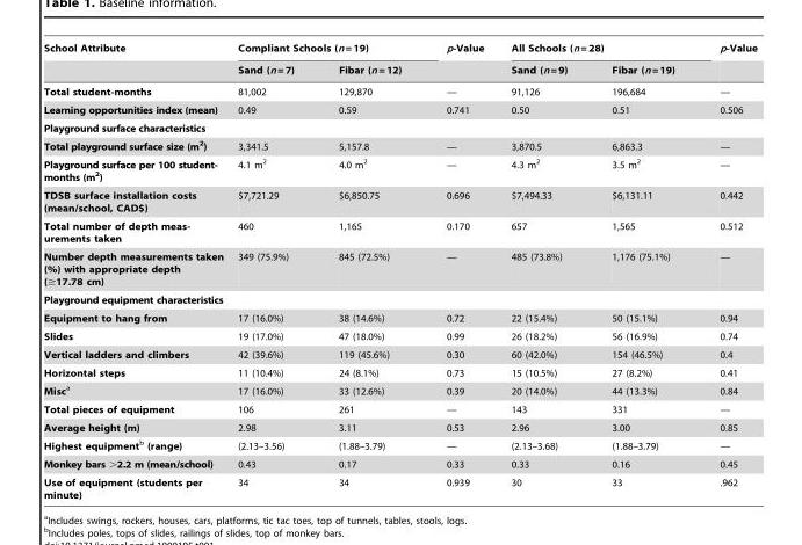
<table><thead><tr><td rowspan="2">School Attribute</td><td colspan="2">Compliant Schools (n = 19)</td><td rowspan="2">p-Value</td><td colspan="2">All Schools (n = 28)</td><td rowspan="2">p-Value</td></tr><tr><td>Sand (n = 7)</td><td>Fibar (n = 12)</td><td>Sand (n = 9)</td><td>Fibar (n = 19)</td></tr></thead><tbody><tr><td>Total student-months</td><td>81,002</td><td>129,870</td><td>—</td><td>91,126</td><td>196,684</td><td>—</td></tr><tr><td>Learning opportunities index (mean)</td><td>0.49</td><td>0.59</td><td>0.741</td><td>0.50</td><td>0.51</td><td>0.506</td></tr><tr><td colspan="7">Playground surface characteristics</td></tr><tr><td>Total playground surface size (m<sup>2</sup>)</td><td>3,341.5</td><td>5,157.8</td><td>—</td><td>3,870.5</td><td>6,863.3</td><td>—</td></tr><tr><td>Playground surface per 100 student- months (m<sup>2</sup>)</td><td>4.1 m<sup>2</sup></td><td>4.0 m<sup>2</sup></td><td>—</td><td>4.3 m<sup>2</sup></td><td>3.5 m<sup>2</sup></td><td>—</td></tr><tr><td>TDSB surface installation costs (mean/school, CAD$)</td><td>$7,721.29</td><td>$6,850.75</td><td>0.696</td><td>$7,494.33</td><td>$6,131.11</td><td>0.442</td></tr><tr><td>Total number of depth meas- urements taken</td><td>460</td><td>1,165</td><td>0.170</td><td>657</td><td>1,565</td><td>0.512</td></tr><tr><td>Number depth measurements taken (%) with appropriate depth (≥17.78 cm)</td><td>349 (75.9%)</td><td>845 (72.5%)</td><td>—</td><td>485 (73.8%)</td><td>1,176 (75.1%)</td><td>—</td></tr><tr><td colspan="7">Playground equipment characteristics</td></tr><tr><td>Equipment to hang from</td><td>17 (16.0%)</td><td>38 (14.6%)</td><td>0.72</td><td>22 (15.4%)</td><td>50 (15.1%)</td><td>0.94</td></tr><tr><td>Slides</td><td>19 (17.0%)</td><td>47 (18.0%)</td><td>0.99</td><td>26 (18.2%)</td><td>56 (16.9%)</td><td>0.74</td></tr><tr><td>Vertical ladders and climbers</td><td>42 (39.6%)</td><td>119 (45.6%)</td><td>0.30</td><td>60 (42.0%)</td><td>154 (46.5%)</td><td>0.4</td></tr><tr><td>Horizontal steps</td><td>11 (10.4%)</td><td>24 (8.1%)</td><td>0.73</td><td>15 (10.5%)</td><td>27 (8.2%)</td><td>0.41</td></tr><tr><td>Misca</td><td>17 (16.0%)</td><td>33 (12.6%)</td><td>0.39</td><td>20 (14.0%)</td><td>44 (13.3%)</td><td>0.84</td></tr><tr><td>Total pieces of equipment</td><td>106</td><td>261</td><td>—</td><td>143</td><td>331</td><td>—</td></tr><tr><td>Average height (m)</td><td>2.98</td><td>3.11</td><td>0.53</td><td>2.96</td><td>3.00</td><td>0.85</td></tr><tr><td>Highest equipmentb (range)</td><td>(2.13–3.56)</td><td>(1.88–3.79)</td><td>—</td><td>(2.13–3.68)</td><td>(1.88–3.79)</td><td>—</td></tr><tr><td>Monkey bars &gt;2.2 m (mean/school)</td><td>0.43</td><td>0.17</td><td>0.33</td><td>0.33</td><td>0.16</td><td>0.45</td></tr><tr><td>Use of equipment (students per minute)</td><td>34</td><td>34</td><td>0.939</td><td>30</td><td>33</td><td>.962</td></tr></tbody></table>